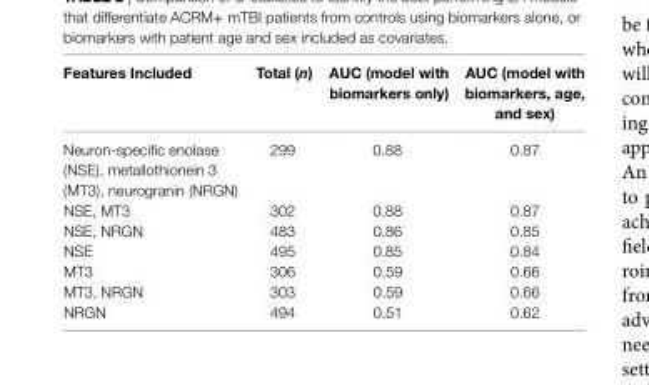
<table><thead><tr><td>Features included</td><td>Total (n)</td><td>aUc (model with biomarkers only)</td><td>aUc (model with biomarkers, age, and sex)</td></tr></thead><tbody><tr><td>Neuron-specific enolase (NSE), metallothionein 3 (MT3), neurogranin (NRGN)</td><td>299</td><td>0.88</td><td>0.87</td></tr><tr><td>NSE, MT3</td><td>302</td><td>0.88</td><td>0.87</td></tr><tr><td>NSE, NRGN</td><td>483</td><td>0.86</td><td>0.85</td></tr><tr><td>NSE</td><td>495</td><td>0.85</td><td>0.84</td></tr><tr><td>MT3</td><td>306</td><td>0.59</td><td>0.66</td></tr><tr><td>MT3, NRGN</td><td>303</td><td>0.59</td><td>0.66</td></tr><tr><td>NRGN</td><td>494</td><td>0.51</td><td>0.62</td></tr></tbody></table>